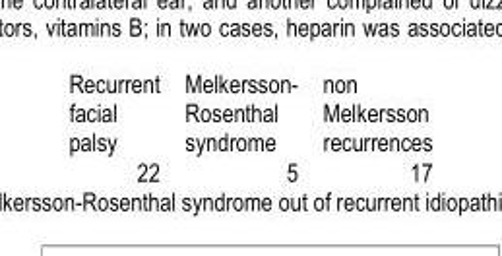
<table><tbody><tr><td>Recurrent facial palsy</td><td>Melkersson- Rosenthal syndrome</td><td>non Melkersson recurrences</td></tr><tr><td>22</td><td>5</td><td>17</td></tr></tbody></table>